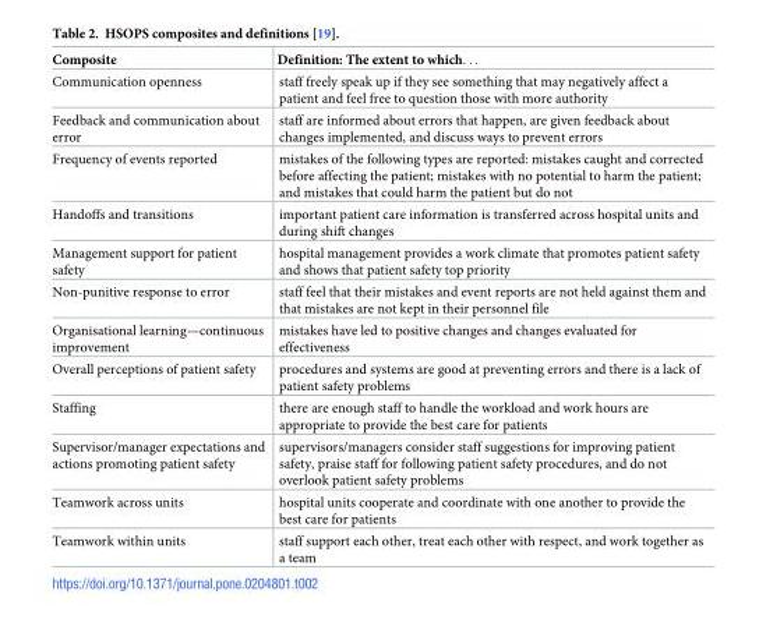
<table><thead><tr><td>Composite</td><td>Definition: The extent to which. . .</td></tr></thead><tbody><tr><td>Communication openness</td><td>staff freely speak up if they see something that may negatively affect a patient and feel free to question those with more authority</td></tr><tr><td>Feedback and communication about error</td><td>staff are informed about errors that happen, are given feedback about changes implemented, and discuss ways to prevent errors</td></tr><tr><td>Frequency of events reported</td><td>mistakes of the following types are reported: mistakes caught and corrected before affecting the patient; mistakes with no potential to harm the patient; and mistakes that could harm the patient but do not</td></tr><tr><td>Handoffs and transitions</td><td>important patient care information is transferred across hospital units and during shift changes</td></tr><tr><td>Management support for patient safety</td><td>hospital management provides a work climate that promotes patient safety and shows that patient safety top priority</td></tr><tr><td>Non-punitive response to error</td><td>staff feel that their mistakes and event reports are not held against them and that mistakes are not kept in their personnel file</td></tr><tr><td>Organisational learning—continuous improvement</td><td>mistakes have led to positive changes and changes evaluated for effectiveness</td></tr><tr><td>Overall perceptions of patient safety</td><td>procedures and systems are good at preventing errors and there is a lack of patient safety problems</td></tr><tr><td>Staffing</td><td>there are enough staff to handle the workload and work hours are appropriate to provide the best care for patients</td></tr><tr><td>Supervisor/manager expectations and actions promoting patient safety</td><td>supervisors/managers consider staff suggestions for improving patient safety, praise staff for following patient safety procedures, and do not overlook patient safety problems</td></tr><tr><td>Teamwork across units</td><td>hospital units cooperate and coordinate with one another to provide the best care for patients</td></tr><tr><td>Teamwork within units</td><td>staff support each other, treat each other with respect, and work together as a team</td></tr></tbody></table>